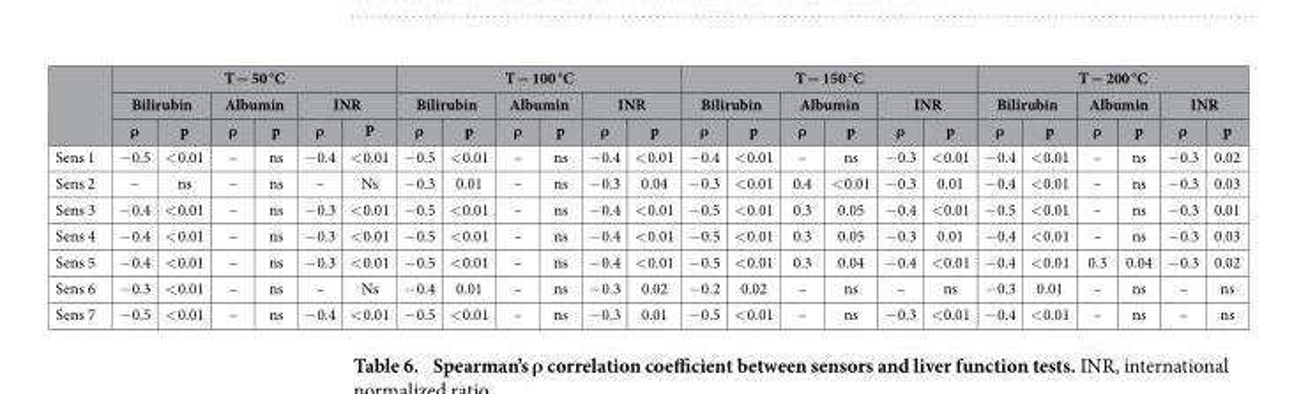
<table><thead><tr><td rowspan="3"></td><td colspan="6">T = 50 °C</td><td colspan="6">T = 100 °C</td><td colspan="6">T = 150 °C</td><td colspan="6">T = 200 °C</td></tr><tr><td colspan="2">Bilirubin</td><td colspan="2">Albumin</td><td colspan="2">INR</td><td colspan="2">Bilirubin</td><td colspan="2">Albumin</td><td colspan="2">INR</td><td colspan="2">Bilirubin</td><td colspan="2">Albumin</td><td colspan="2">INR</td><td colspan="2">Bilirubin</td><td colspan="2">Albumin</td><td colspan="2">INR</td></tr><tr><td>ρ</td><td>p</td><td>ρ</td><td>p</td><td>ρ</td><td>P</td><td>ρ</td><td>p</td><td>ρ</td><td>p</td><td>ρ</td><td>p</td><td>ρ</td><td>p</td><td>ρ</td><td>p</td><td>ρ</td><td>p</td><td>ρ</td><td>p</td><td>ρ</td><td>p</td><td>ρ</td><td>p</td></tr></thead><tbody><tr><td>Sens 1</td><td>− 0.5</td><td>&lt; 0.01</td><td>–</td><td>ns</td><td>− 0.4</td><td>&lt; 0.01</td><td>− 0.5</td><td>&lt; 0.01</td><td>–</td><td>ns</td><td>− 0.4</td><td>&lt; 0.01</td><td>− 0.4</td><td>&lt; 0.01</td><td>–</td><td>ns</td><td>− 0.3</td><td>&lt; 0.01</td><td>− 0.4</td><td>&lt; 0.01</td><td>–</td><td>ns</td><td>− 0.3</td><td>0.02</td></tr><tr><td>Sens 2</td><td>–</td><td>ns</td><td>–</td><td>ns</td><td>–</td><td>Ns</td><td>− 0.3</td><td>0.01</td><td>–</td><td>ns</td><td>− 0.3</td><td>0.04</td><td>− 0.3</td><td>&lt; 0.01</td><td>0.4</td><td>&lt; 0.01</td><td>− 0.3</td><td>0.01</td><td>− 0.4</td><td>&lt; 0.01</td><td>–</td><td>ns</td><td>− 0.3</td><td>0.03</td></tr><tr><td>Sens 3</td><td>− 0.4</td><td>&lt; 0.01</td><td>–</td><td>ns</td><td>− 0.3</td><td>&lt; 0.01</td><td>− 0.5</td><td>&lt; 0.01</td><td>–</td><td>ns</td><td>− 0.4</td><td>&lt; 0.01</td><td>− 0.5</td><td>&lt; 0.01</td><td>0.3</td><td>0.05</td><td>− 0.4</td><td>&lt; 0.01</td><td>− 0.5</td><td>&lt; 0.01</td><td>–</td><td>ns</td><td>− 0.3</td><td>0.01</td></tr><tr><td>Sens 4</td><td>− 0.4</td><td>&lt; 0.01</td><td>–</td><td>ns</td><td>− 0.3</td><td>&lt; 0.01</td><td>− 0.5</td><td>&lt; 0.01</td><td>–</td><td>ns</td><td>− 0.4</td><td>&lt; 0.01</td><td>− 0.5</td><td>&lt; 0.01</td><td>0.3</td><td>0.05</td><td>− 0.3</td><td>0.01</td><td>− 0.4</td><td>&lt; 0.01</td><td>–</td><td>ns</td><td>− 0.3</td><td>0.03</td></tr><tr><td>Sens 5</td><td>− 0.4</td><td>&lt; 0.01</td><td>–</td><td>ns</td><td>− 0.3</td><td>&lt; 0.01</td><td>− 0.5</td><td>&lt; 0.01</td><td>–</td><td>ns</td><td>− 0.4</td><td>&lt; 0.01</td><td>− 0.5</td><td>&lt; 0.01</td><td>0.3</td><td>0.04</td><td>− 0.4</td><td>&lt; 0.01</td><td>− 0.4</td><td>&lt; 0.01</td><td>0.3</td><td>0.04</td><td>− 0.3</td><td>0.02</td></tr><tr><td>Sens 6</td><td>− 0.3</td><td>&lt; 0.01</td><td>–</td><td>ns</td><td>–</td><td>Ns</td><td>− 0.4</td><td>0.01</td><td>–</td><td>ns</td><td>− 0.3</td><td>0.02</td><td>− 0.2</td><td>0.02</td><td>–</td><td>ns</td><td>–</td><td>ns</td><td>− 0.3</td><td>0.01</td><td>–</td><td>ns</td><td>–</td><td>ns</td></tr><tr><td>Sens 7</td><td>− 0.5</td><td>&lt; 0.01</td><td>–</td><td>ns</td><td>− 0.4</td><td>&lt; 0.01</td><td>− 0.5</td><td>&lt; 0.01</td><td>–</td><td>ns</td><td>− 0.3</td><td>0.01</td><td>− 0.5</td><td>&lt; 0.01</td><td>–</td><td>ns</td><td>− 0.3</td><td>&lt; 0.01</td><td>− 0.4</td><td>&lt; 0.01</td><td>–</td><td>ns</td><td>–</td><td>ns</td></tr></tbody></table>